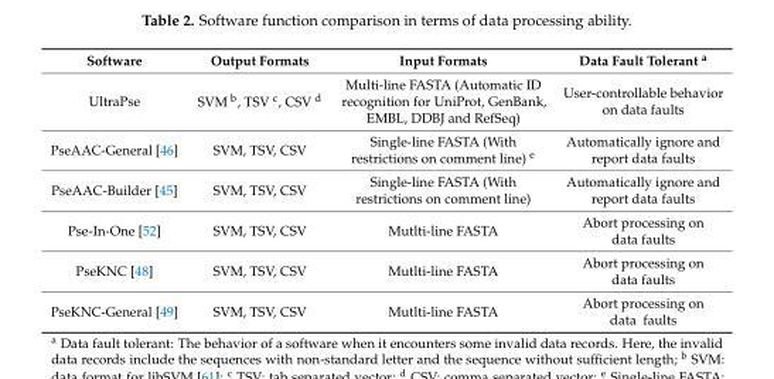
<table><thead><tr><td>Software</td><td>Output Formats</td><td>Input Formats</td><td>Data Fault Tolerant <sup>a</sup></td></tr></thead><tbody><tr><td>UltraPse</td><td>SVM <sup>b</sup>, TSV <sup>c</sup>, CSV <sup>d</sup></td><td>Multi-line FASTA (Automatic ID recognition for UniProt, GenBank, EMBL, DDBJ and RefSeq)</td><td>User-controllable behavior on data faults</td></tr><tr><td>PseAAC-General [46]</td><td>SVM, TSV, CSV</td><td>Single-line FASTA (With restrictions on comment line) <sup>e</sup></td><td>Automatically ignore and report data faults</td></tr><tr><td>PseAAC-Builder [45]</td><td>SVM, TSV, CSV</td><td>Single-line FASTA (With restrictions on comment line)</td><td>Automatically ignore and report data faults</td></tr><tr><td>Pse-In-One [52]</td><td>SVM, TSV, CSV</td><td>Mutlti-line FASTA</td><td>Abort processing on data faults</td></tr><tr><td>PseKNC [48]</td><td>SVM, TSV, CSV</td><td>Mutlti-line FASTA</td><td>Abort processing on data faults</td></tr><tr><td>PseKNC-General [49]</td><td>SVM, TSV, CSV</td><td>Mutlti-line FASTA</td><td>Abort processing on data faults</td></tr></tbody></table>